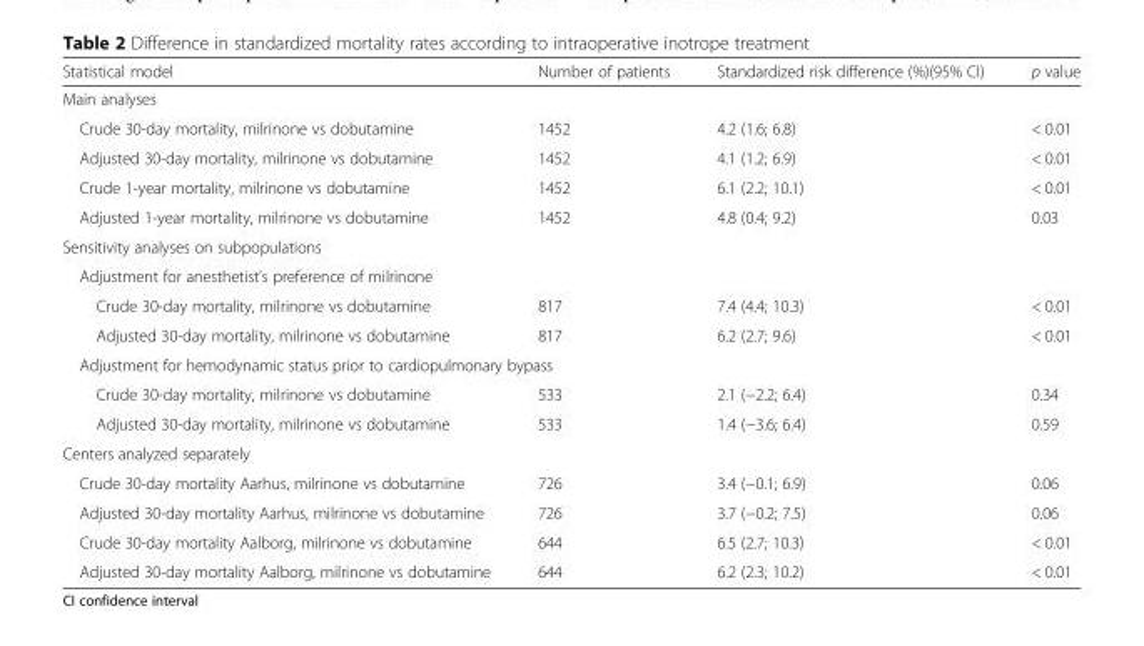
<table><thead><tr><td>Statistical model</td><td>Number of patients</td><td>Standardized risk difference (%)(95% CI)</td><td>p value</td></tr></thead><tbody><tr><td colspan="4">Main analyses</td></tr><tr><td>Crude 30-day mortality, milrinone vs dobutamine</td><td>1452</td><td>4.2 (1.6; 6.8)</td><td>&lt; 0.01</td></tr><tr><td>Adjusted 30-day mortality, milrinone vs dobutamine</td><td>1452</td><td>4.1 (1.2; 6.9)</td><td>&lt; 0.01</td></tr><tr><td>Crude 1-year mortality, milrinone vs dobutamine</td><td>1452</td><td>6.1 (2.2; 10.1)</td><td>&lt; 0.01</td></tr><tr><td>Adjusted 1-year mortality, milrinone vs dobutamine</td><td>1452</td><td>4.8 (0.4; 9.2)</td><td>0.03</td></tr><tr><td colspan="4">Sensitivity analyses on subpopulations</td></tr><tr><td colspan="4">Adjustment for anesthetist’s preference of milrinone</td></tr><tr><td>Crude 30-day mortality, milrinone vs dobutamine</td><td>817</td><td>7.4 (4.4; 10.3)</td><td>&lt; 0.01</td></tr><tr><td>Adjusted 30-day mortality, milrinone vs dobutamine</td><td>817</td><td>6.2 (2.7; 9.6)</td><td>&lt; 0.01</td></tr><tr><td colspan="4">Adjustment for hemodynamic status prior to cardiopulmonary bypass</td></tr><tr><td>Crude 30-day mortality, milrinone vs dobutamine</td><td>533</td><td>2.1 (−2.2; 6.4)</td><td>0.34</td></tr><tr><td>Adjusted 30-day mortality, milrinone vs dobutamine</td><td>533</td><td>1.4 (−3.6; 6.4)</td><td>0.59</td></tr><tr><td colspan="4">Centers analyzed separately</td></tr><tr><td>Crude 30-day mortality Aarhus, milrinone vs dobutamine</td><td>726</td><td>3.4 (−0.1; 6.9)</td><td>0.06</td></tr><tr><td>Adjusted 30-day mortality Aarhus, milrinone vs dobutamine</td><td>726</td><td>3.7 (−0.2; 7.5)</td><td>0.06</td></tr><tr><td>Crude 30-day mortality Aalborg, milrinone vs dobutamine</td><td>644</td><td>6.5 (2.7; 10.3)</td><td>&lt; 0.01</td></tr><tr><td>Adjusted 30-day mortality Aalborg, milrinone vs dobutamine</td><td>644</td><td>6.2 (2.3; 10.2)</td><td>&lt; 0.01</td></tr></tbody></table>